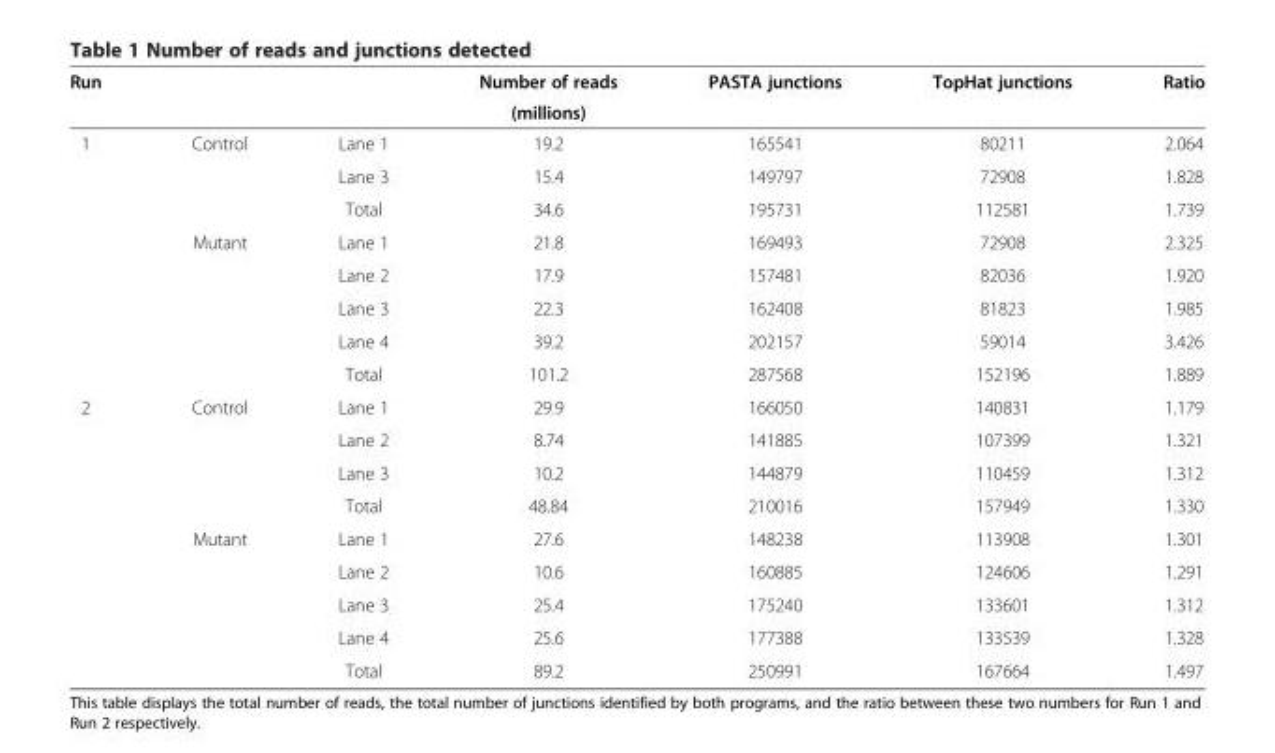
<table><thead><tr><td rowspan="2">Run</td><td rowspan="2"></td><td rowspan="2"></td><td rowspan="2">Number of reads (millions)</td><td rowspan="2">PASTA junctions</td><td rowspan="2">TopHat junctions</td><td rowspan="2">Ratio</td></tr><tr></tr></thead><tbody><tr><td rowspan="8">1</td><td>Control</td><td>Lane 1</td><td>19.2</td><td>165541</td><td>80211</td><td>2.064</td></tr><tr><td></td><td>Lane 3</td><td>15.4</td><td>149797</td><td>72908</td><td>1.828</td></tr><tr><td></td><td>Total</td><td>34.6</td><td>195731</td><td>112581</td><td>1.739</td></tr><tr><td>Mutant</td><td>Lane 1</td><td>21.8</td><td>169493</td><td>72908</td><td>2.325</td></tr><tr><td></td><td>Lane 2</td><td>17.9</td><td>157481</td><td>82036</td><td>1.920</td></tr><tr><td></td><td>Lane 3</td><td>22.3</td><td>162408</td><td>81823</td><td>1.985</td></tr><tr><td></td><td>Lane 4</td><td>39.2</td><td>202157</td><td>59014</td><td>3.426</td></tr><tr><td></td><td>Total</td><td>101.2</td><td>287568</td><td>152196</td><td>1.889</td></tr><tr><td rowspan="9">2</td><td>Control</td><td>Lane 1</td><td>29.9</td><td>166050</td><td>140831</td><td>1.179</td></tr><tr><td></td><td>Lane 2</td><td>8.74</td><td>141885</td><td>107399</td><td>1.321</td></tr><tr><td></td><td>Lane 3</td><td>10.2</td><td>144879</td><td>110459</td><td>1.312</td></tr><tr><td></td><td>Total</td><td>48.84</td><td>210016</td><td>157949</td><td>1.330</td></tr><tr><td>Mutant</td><td>Lane 1</td><td>27.6</td><td>148238</td><td>113908</td><td>1.301</td></tr><tr><td></td><td>Lane 2</td><td>10.6</td><td>160885</td><td>124606</td><td>1.291</td></tr><tr><td></td><td>Lane 3</td><td>25.4</td><td>175240</td><td>133601</td><td>1.312</td></tr><tr><td></td><td>Lane 4</td><td>25.6</td><td>177388</td><td>133539</td><td>1.328</td></tr><tr><td></td><td>Total</td><td>89.2</td><td>250991</td><td>167664</td><td>1.497</td></tr></tbody></table>